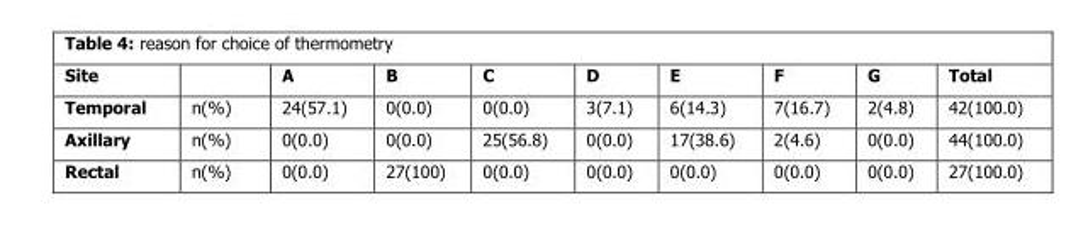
<table><thead><tr><td>Site</td><td></td><td>A</td><td>B</td><td>C</td><td>D</td><td>E</td><td>F</td><td>G</td><td>Total</td></tr></thead><tbody><tr><td>Temporal</td><td>n(%)</td><td>24(57.1)</td><td>0(0.0)</td><td>0(0.0)</td><td>3(7.1)</td><td>6(14.3)</td><td>7(16.7)</td><td>2(4.8)</td><td>42(100.0)</td></tr><tr><td>Axillary</td><td>n(%)</td><td>0(0.0)</td><td>0(0.0)</td><td>25(56.8)</td><td>0(0.0)</td><td>17(38.6)</td><td>2(4.6)</td><td>0(0.0)</td><td>44(100.0)</td></tr><tr><td>Rectal</td><td>n(%)</td><td>0(0.0)</td><td>27(100)</td><td>0(0.0)</td><td>0(0.0)</td><td>0(0.0)</td><td>0(0.0)</td><td>0(0.0)</td><td>27(100.0)</td></tr></tbody></table>